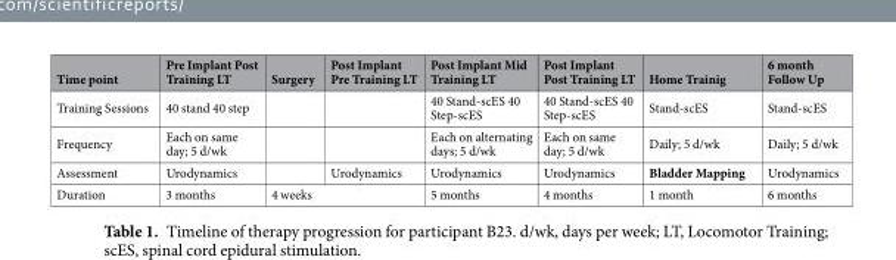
<table><thead><tr><td>Time point</td><td>Pre Implant Post Training LT</td><td>Surgery</td><td>Post Implant Pre Training LT</td><td>Post Implant Mid Training LT</td><td>Post Implant Post Training LT</td><td>Home Trainig</td><td>6 month Follow Up</td></tr></thead><tbody><tr><td>Training Sessions</td><td>40 stand 40 step</td><td></td><td></td><td>40 Stand-scES 40 Step-scES</td><td>40 Stand-scES 40 Step-scES</td><td>Stand-scES</td><td>Stand-scES</td></tr><tr><td>Frequency</td><td>Each on same day; 5 d/wk</td><td></td><td></td><td>Each on alternating days; 5 d/wk</td><td>Each on same day; 5 d/wk</td><td>Daily; 5 d/wk</td><td>Daily; 5 d/wk</td></tr><tr><td>Assessment</td><td>Urodynamics</td><td></td><td>Urodynamics</td><td>Urodynamics</td><td>Urodynamics</td><td>Bladder Mapping</td><td>Urodynamics</td></tr><tr><td>Duration</td><td>3 months</td><td colspan="2">4 weeks</td><td>5 months</td><td>4 months</td><td>1 month</td><td>6 months</td></tr></tbody></table>